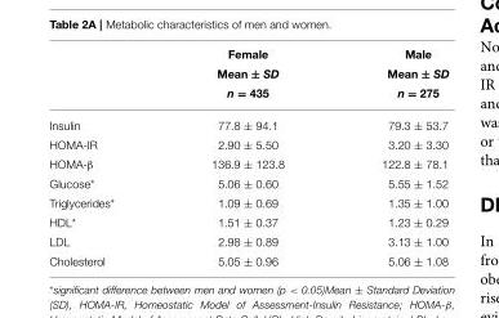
<table><thead><tr><td rowspan="3"></td><td rowspan="3">Female Mean ± SD n = 435</td><td rowspan="3">Male Mean ± SD n = 275</td></tr><tr></tr><tr></tr></thead><tbody><tr><td>Insulin</td><td>77.8 ± 94.1</td><td>79.3 ± 53.7</td></tr><tr><td>HOMA-IR</td><td>2.90 ± 5.50</td><td>3.20 ± 3.30</td></tr><tr><td>HOMA-β</td><td>136.9 ± 123.8</td><td>122.8 ± 78.1</td></tr><tr><td>Glucose*</td><td>5.06 ± 0.60</td><td>5.55 ± 1.52</td></tr><tr><td>Triglycerides*</td><td>1.09 ± 0.69</td><td>1.35 ± 1.00</td></tr><tr><td>HDL*</td><td>1.51 ± 0.37</td><td>1.23 ± 0.29</td></tr><tr><td>LDL</td><td>2.98 ± 0.89</td><td>3.13 ± 1.00</td></tr><tr><td>Cholesterol</td><td>5.05 ± 0.96</td><td>5.06 ± 1.08</td></tr></tbody></table>